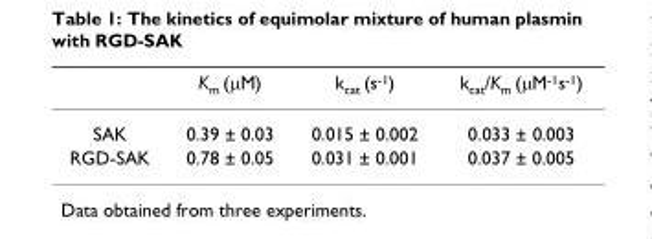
<table><thead><tr><td></td><td>K<sub>m</sub> (µM)</td><td>k<sub>cat</sub> (s<sup>-1</sup>)</td><td>k<sub>cat</sub>/K<sub>m</sub> (µM<sup>-1</sup>s<sup>-1</sup>)</td></tr></thead><tbody><tr><td>SAK</td><td>0.39 ± 0.03</td><td>0.015 ± 0.002</td><td>0.033 ± 0.003</td></tr><tr><td>RGD-SAK</td><td>0.78 ± 0.05</td><td>0.031 ± 0.001</td><td>0.037 ± 0.005</td></tr></tbody></table>